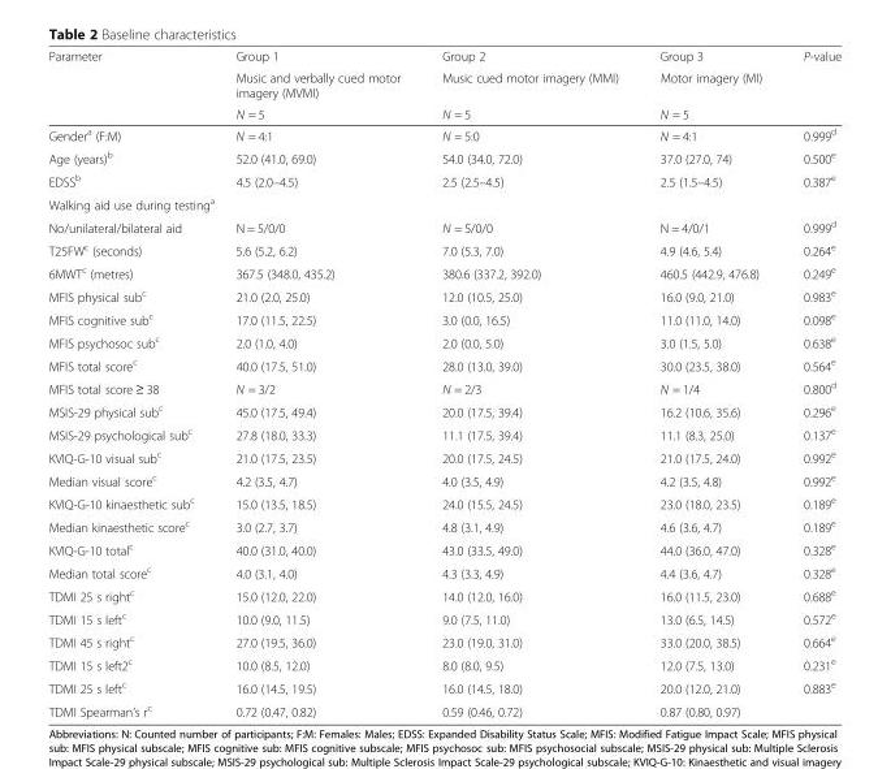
<table><thead><tr><td rowspan="3">Parameter</td><td rowspan="3">Group 1 Music and verbally cued motor imagery (MVMI) N = 5</td><td rowspan="3">Group 2 Music cued motor imagery (MMI) N = 5</td><td rowspan="3">Group 3 Motor imagery (MI) N = 5</td><td rowspan="3">P-value</td></tr><tr></tr><tr></tr></thead><tbody><tr><td>Gender<sup>a</sup> (F:M)</td><td>N = 4:1</td><td>N = 5:0</td><td>N = 4:1</td><td>0.999<sup>d</sup></td></tr><tr><td>Age (years)<sup>b</sup></td><td>52.0 (41.0, 69.0)</td><td>54.0 (34.0, 72.0)</td><td>37.0 (27.0, 74)</td><td>0.500<sup>e</sup></td></tr><tr><td>EDSS<sup>b</sup></td><td>4.5 (2.0–4.5)</td><td>2.5 (2.5–4.5)</td><td>2.5 (1.5–4.5)</td><td>0.387<sup>e</sup></td></tr><tr><td colspan="5">Walking aid use during testing<sup>a</sup></td></tr><tr><td>No/unilateral/bilateral aid</td><td>N = 5/0/0</td><td>N = 5/0/0</td><td>N = 4/0/1</td><td>0.999<sup>d</sup></td></tr><tr><td>T25FW<sup>c</sup> (seconds)</td><td>5.6 (5.2, 6.2)</td><td>7.0 (5.3, 7.0)</td><td>4.9 (4.6, 5.4)</td><td>0.264<sup>e</sup></td></tr><tr><td>6MWT<sup>c</sup> (metres)</td><td>367.5 (348.0, 435.2)</td><td>380.6 (337.2, 392.0)</td><td>460.5 (442.9, 476.8)</td><td>0.249<sup>e</sup></td></tr><tr><td>MFIS physical sub<sup>c</sup></td><td>21.0 (2.0, 25.0)</td><td>12.0 (10.5, 25.0)</td><td>16.0 (9.0, 21.0)</td><td>0.983<sup>e</sup></td></tr><tr><td>MFIS cognitive sub<sup>c</sup></td><td>17.0 (11.5, 22.5)</td><td>3.0 (0.0, 16.5)</td><td>11.0 (11.0, 14.0)</td><td>0.098<sup>e</sup></td></tr><tr><td>MFIS psychosoc sub<sup>c</sup></td><td>2.0 (1.0, 4.0)</td><td>2.0 (0.0, 5.0)</td><td>3.0 (1.5, 5.0)</td><td>0.638<sup>e</sup></td></tr><tr><td>MFIS total score<sup>c</sup></td><td>40.0 (17.5, 51.0)</td><td>28.0 (13.0, 39.0)</td><td>30.0 (23.5, 38.0)</td><td>0.564<sup>e</sup></td></tr><tr><td>MFIS total score ≥ 38</td><td>N = 3/2</td><td>N = 2/3</td><td>N = 1/4</td><td>0.800<sup>d</sup></td></tr><tr><td>MSIS-29 physical sub<sup>c</sup></td><td>45.0 (17.5, 49.4)</td><td>20.0 (17.5, 39.4)</td><td>16.2 (10.6, 35.6)</td><td>0.296<sup>e</sup></td></tr><tr><td>MSIS-29 psychological sub<sup>c</sup></td><td>27.8 (18.0, 33.3)</td><td>11.1 (17.5, 39.4)</td><td>11.1 (8.3, 25.0)</td><td>0.137<sup>e</sup></td></tr><tr><td>KVIQ-G-10 visual sub<sup>c</sup></td><td>21.0 (17.5, 23.5)</td><td>20.0 (17.5, 24.5)</td><td>21.0 (17.5, 24.0)</td><td>0.992<sup>e</sup></td></tr><tr><td>Median visual score<sup>c</sup></td><td>4.2 (3.5, 4.7)</td><td>4.0 (3.5, 4.9)</td><td>4.2 (3.5, 4.8)</td><td>0.992<sup>e</sup></td></tr><tr><td>KVIQ-G-10 kinaesthetic sub<sup>c</sup></td><td>15.0 (13.5, 18.5)</td><td>24.0 (15.5, 24.5)</td><td>23.0 (18.0, 23.5)</td><td>0.189<sup>e</sup></td></tr><tr><td>Median kinaesthetic score<sup>c</sup></td><td>3.0 (2.7, 3.7)</td><td>4.8 (3.1, 4.9)</td><td>4.6 (3.6, 4.7)</td><td>0.189<sup>e</sup></td></tr><tr><td>KVIQ-G-10 total<sup>c</sup></td><td>40.0 (31.0, 40.0)</td><td>43.0 (33.5, 49.0)</td><td>44.0 (36.0, 47.0)</td><td>0.328<sup>e</sup></td></tr><tr><td>Median total score<sup>c</sup></td><td>4.0 (3.1, 4.0)</td><td>4.3 (3.3, 4.9)</td><td>4.4 (3.6, 4.7)</td><td>0.328<sup>e</sup></td></tr><tr><td>TDMI 25 s right<sup>c</sup></td><td>15.0 (12.0, 22.0)</td><td>14.0 (12.0, 16.0)</td><td>16.0 (11.5, 23.0)</td><td>0.688<sup>e</sup></td></tr><tr><td>TDMI 15 s left<sup>c</sup></td><td>10.0 (9.0, 11.5)</td><td>9.0 (7.5, 11.0)</td><td>13.0 (6.5, 14.5)</td><td>0.572<sup>e</sup></td></tr><tr><td>TDMI 45 s right<sup>c</sup></td><td>27.0 (19.5, 36.0)</td><td>23.0 (19.0, 31.0)</td><td>33.0 (20.0, 38.5)</td><td>0.664<sup>e</sup></td></tr><tr><td>TDMI 15 s left2<sup>c</sup></td><td>10.0 (8.5, 12.0)</td><td>8.0 (8.0, 9.5)</td><td>12.0 (7.5, 13.0)</td><td>0.231<sup>e</sup></td></tr><tr><td>TDMI 25 s left<sup>c</sup></td><td>16.0 (14.5, 19.5)</td><td>16.0 (14.5, 18.0)</td><td>20.0 (12.0, 21.0)</td><td>0.883<sup>e</sup></td></tr><tr><td>TDMI Spearman’s r<sup>c</sup></td><td>0.72 (0.47, 0.82)</td><td>0.59 (0.46, 0.72)</td><td>0.87 (0.80, 0.97)</td><td></td></tr></tbody></table>